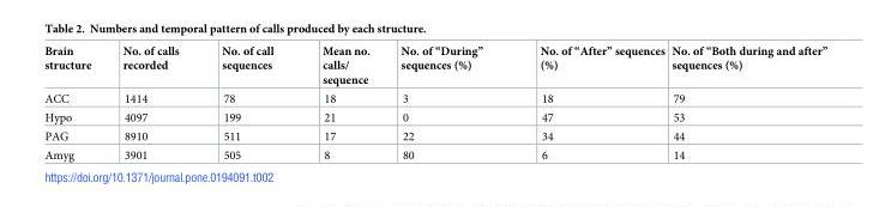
<table><thead><tr><td>Brain structure</td><td>No. of calls recorded</td><td>No. of call sequences</td><td>Mean no. calls/ sequence</td><td>No. of “During” sequences (%)</td><td>No. of “After” sequences (%)</td><td>No. of “Both during and after” sequences (%)</td></tr></thead><tbody><tr><td>ACC</td><td>1414</td><td>78</td><td>18</td><td>3</td><td>18</td><td>79</td></tr><tr><td>Hypo</td><td>4097</td><td>199</td><td>21</td><td>0</td><td>47</td><td>53</td></tr><tr><td>PAG</td><td>8910</td><td>511</td><td>17</td><td>22</td><td>34</td><td>44</td></tr><tr><td>Amyg</td><td>3901</td><td>505</td><td>8</td><td>80</td><td>6</td><td>14</td></tr></tbody></table>